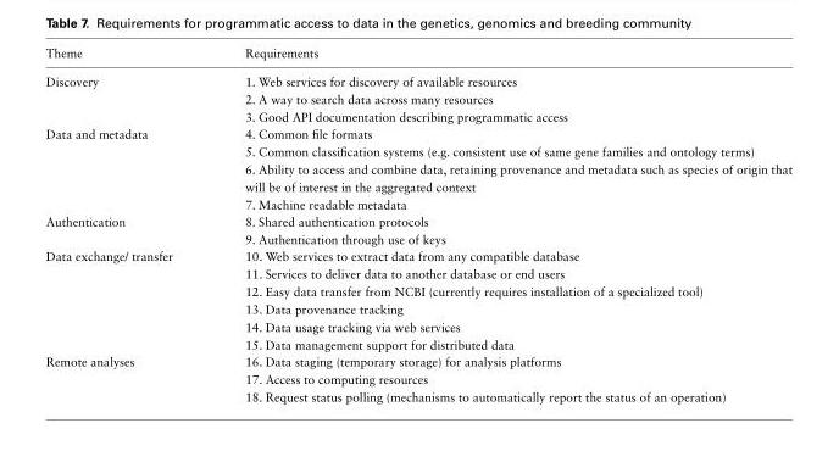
<table><thead><tr><td>Theme</td><td>Requirements</td></tr></thead><tbody><tr><td>Discovery</td><td>1. Web services for discovery of available resources 2. A way to search data across many resources 3. Good API documentation describing programmatic access</td></tr><tr><td>Data and metadata</td><td>4. Common file formats 5. Common classification systems (e.g. consistent use of same gene families and ontology terms) 6. Ability to access and combine data, retaining provenance and metadata such as species of origin that will be of interest in the aggregated context 7. Machine readable metadata</td></tr><tr><td>Authentication</td><td>8. Shared authentication protocols 9. Authentication through use of keys</td></tr><tr><td>Data exchange/ transfer</td><td>10. Web services to extract data from any compatible database 11. Services to deliver data to another database or end users 12. Easy data transfer from NCBI (currently requires installation of a specialized tool) 13. Data provenance tracking 14. Data usage tracking via web services 15. Data management support for distributed data</td></tr><tr><td>Remote analyses</td><td>16. Data staging (temporary storage) for analysis platforms 17. Access to computing resources 18. Request status polling (mechanisms to automatically report the status of an operation)</td></tr></tbody></table>